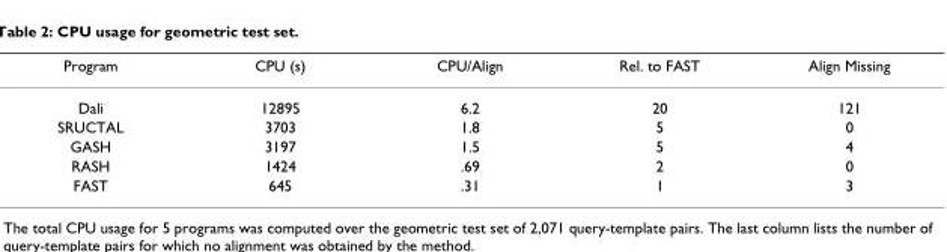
<table><thead><tr><td>Program</td><td>CPU (s)</td><td>CPU/Align</td><td>Rel. to FAST</td><td>Align Missing</td></tr></thead><tbody><tr><td>Dali</td><td>12895</td><td>6.2</td><td>20</td><td>121</td></tr><tr><td>SRUCTAL</td><td>3703</td><td>1.8</td><td>5</td><td>0</td></tr><tr><td>GASH</td><td>3197</td><td>1.5</td><td>5</td><td>4</td></tr><tr><td>RASH</td><td>1424</td><td>.69</td><td>2</td><td>0</td></tr><tr><td>FAST</td><td>645</td><td>.31</td><td>1</td><td>3</td></tr></tbody></table>